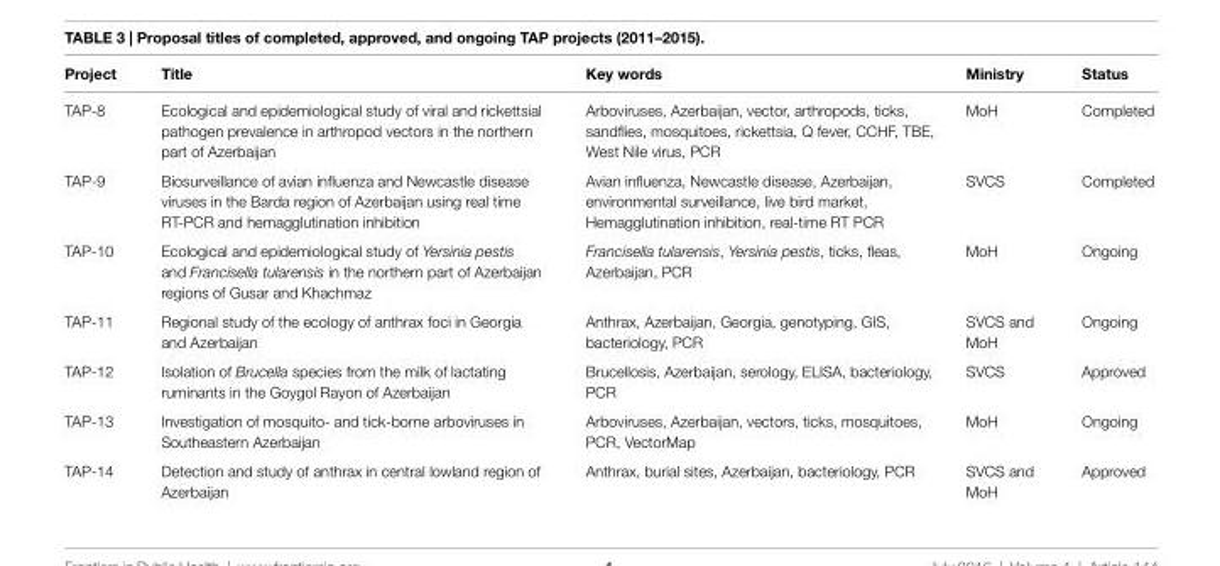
<table><thead><tr><td>Project</td><td>Title</td><td>Key words</td><td>Ministry</td><td>Status</td></tr></thead><tbody><tr><td>TAP-8</td><td>Ecological and epidemiological study of viral and rickettsial pathogen prevalence in arthropod vectors in the northern part of Azerbaijan</td><td>Arboviruses, Azerbaijan, vector, arthropods, ticks, sandflies, mosquitoes, rickettsia, Q fever, CCHF, TBE, West Nile virus, PCR</td><td>MoH</td><td>Completed</td></tr><tr><td>TAP-9</td><td>Biosurveillance of avian influenza and Newcastle disease viruses in the Barda region of Azerbaijan using real time RT-PCR and hemagglutination inhibition</td><td>Avian influenza, Newcastle disease, Azerbaijan, environmental surveillance, live bird market, Hemagglutination inhibition, real-time RT PCR</td><td>SVCS</td><td>Completed</td></tr><tr><td>TAP-10</td><td>Ecological and epidemiological study of Yersinia pestis and Francisella tularensis in the northern part of Azerbaijan regions of Gusar and Khachmaz</td><td>Francisella tularensis, Yersinia pestis, ticks, fleas, Azerbaijan, PCR</td><td>MoH</td><td>Ongoing</td></tr><tr><td>TAP-11</td><td>Regional study of the ecology of anthrax foci in Georgia and Azerbaijan</td><td>Anthrax, Azerbaijan, Georgia, genotyping, GIS, bacteriology, PCR</td><td>SVCS and MoH</td><td>Ongoing</td></tr><tr><td>TAP-12</td><td>Isolation of Brucella species from the milk of lactating ruminants in the Goygol Rayon of Azerbaijan</td><td>Brucellosis, Azerbaijan, serology, ELISA, bacteriology, PCR</td><td>SVCS</td><td>Approved</td></tr><tr><td>TAP-13</td><td>Investigation of mosquito- and tick-borne arboviruses in Southeastern Azerbaijan</td><td>Arboviruses, Azerbaijan, vectors, ticks, mosquitoes, PCR, VectorMap</td><td>MoH</td><td>Ongoing</td></tr><tr><td>TAP-14</td><td>Detection and study of anthrax in central lowland region of Azerbaijan</td><td>Anthrax, burial sites, Azerbaijan, bacteriology, PCR</td><td>SVCS and MoH</td><td>Approved</td></tr></tbody></table>